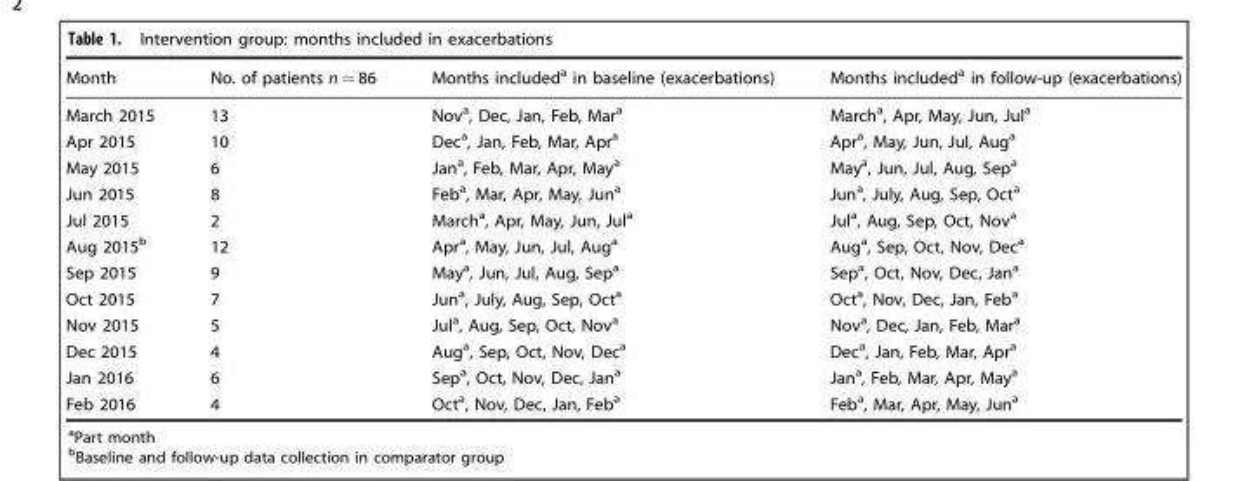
<table><thead><tr><td>Month</td><td>No. of patients n = 86</td><td>Months included<sup>a</sup> in baseline (exacerbations)</td><td>Months included<sup>a</sup> in follow-up (exacerbations)</td></tr></thead><tbody><tr><td>March 2015</td><td>13</td><td>Nov<sup>a</sup>, Dec, Jan, Feb, Mar<sup>a</sup></td><td>March<sup>a</sup>, Apr, May, Jun, Jul<sup>a</sup></td></tr><tr><td>Apr 2015</td><td>10</td><td>Dec<sup>a</sup>, Jan, Feb, Mar, Apr<sup>a</sup></td><td>Apr<sup>a</sup>, May, Jun, Jul, Aug<sup>a</sup></td></tr><tr><td>May 2015</td><td>6</td><td>Jan<sup>a</sup>, Feb, Mar, Apr, May<sup>a</sup></td><td>May<sup>a</sup>, Jun, Jul, Aug, Sep<sup>a</sup></td></tr><tr><td>Jun 2015</td><td>8</td><td>Feb<sup>a</sup>, Mar, Apr, May, Jun<sup>a</sup></td><td>Jun<sup>a</sup>, July, Aug, Sep, Oct<sup>a</sup></td></tr><tr><td>Jul 2015</td><td>2</td><td>March<sup>a</sup>, Apr, May, Jun, Jul<sup>a</sup></td><td>Jul<sup>a</sup>, Aug, Sep, Oct, Nov<sup>a</sup></td></tr><tr><td>Aug 2015<sup>b</sup></td><td>12</td><td>Apr<sup>a</sup>, May, Jun, Jul, Aug<sup>a</sup></td><td>Aug<sup>a</sup>, Sep, Oct, Nov, Dec<sup>a</sup></td></tr><tr><td>Sep 2015</td><td>9</td><td>May<sup>a</sup>, Jun, Jul, Aug, Sep<sup>a</sup></td><td>Sep<sup>a</sup>, Oct, Nov, Dec, Jan<sup>a</sup></td></tr><tr><td>Oct 2015</td><td>7</td><td>Jun<sup>a</sup>, July, Aug, Sep, Oct<sup>a</sup></td><td>Oct<sup>a</sup>, Nov, Dec, Jan, Feb<sup>a</sup></td></tr><tr><td>Nov 2015</td><td>5</td><td>Jul<sup>a</sup>, Aug, Sep, Oct, Nov<sup>a</sup></td><td>Nov<sup>a</sup>, Dec, Jan, Feb, Mar<sup>a</sup></td></tr><tr><td>Dec 2015</td><td>4</td><td>Aug<sup>a</sup>, Sep, Oct, Nov, Dec<sup>a</sup></td><td>Dec<sup>a</sup>, Jan, Feb, Mar, Apr<sup>a</sup></td></tr><tr><td>Jan 2016</td><td>6</td><td>Sep<sup>a</sup>, Oct, Nov, Dec, Jan<sup>a</sup></td><td>Jan<sup>a</sup>, Feb, Mar, Apr, May<sup>a</sup></td></tr><tr><td>Feb 2016</td><td>4</td><td>Oct<sup>a</sup>, Nov, Dec, Jan, Feb<sup>a</sup></td><td>Feb<sup>a</sup>, Mar, Apr, May, Jun<sup>a</sup></td></tr></tbody></table>